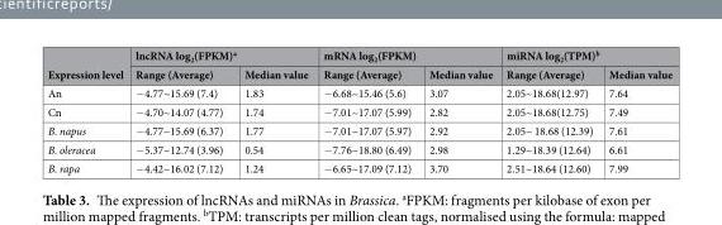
<table><thead><tr><td rowspan="2">Expression level</td><td colspan="2">lncRNA log<sub>2</sub>(FPKM)<sup>a</sup></td><td colspan="2">mRNA log<sub>2</sub>(FPKM)</td><td colspan="2">miRNA log<sub>2</sub>(TPM)<sup>b</sup></td></tr><tr><td>Range (Average)</td><td>Median value</td><td>Range (Average)</td><td>Median value</td><td>Range (Average)</td><td>Median value</td></tr></thead><tbody><tr><td>An</td><td>−4.77~15.69 (7.4)</td><td>1.83</td><td>−6.68~15.46 (5.6)</td><td>3.07</td><td>2.05~18.68(12.97)</td><td>7.64</td></tr><tr><td>Cn</td><td>−4.70~14.07 (4.77)</td><td>1.74</td><td>−7.01~17.07 (5.99)</td><td>2.82</td><td>2.05~18.68(12.75)</td><td>7.49</td></tr><tr><td>B. napus</td><td>−4.77~15.69 (6.37)</td><td>1.77</td><td>−7.01~17.07 (5.97)</td><td>2.92</td><td>2.05~ 18.68 (12.39)</td><td>7.61</td></tr><tr><td>B. oleracea</td><td>−5.37~12.74 (3.96)</td><td>0.54</td><td>−7.76~18.80 (6.49)</td><td>2.98</td><td>1.29~18.39 (12.64)</td><td>6.61</td></tr><tr><td>B. rapa</td><td>−4.42~16.02 (7.12)</td><td>1.24</td><td>−6.65~17.09 (7.12)</td><td>3.70</td><td>2.51~18.64 (12.60)</td><td>7.99</td></tr></tbody></table>